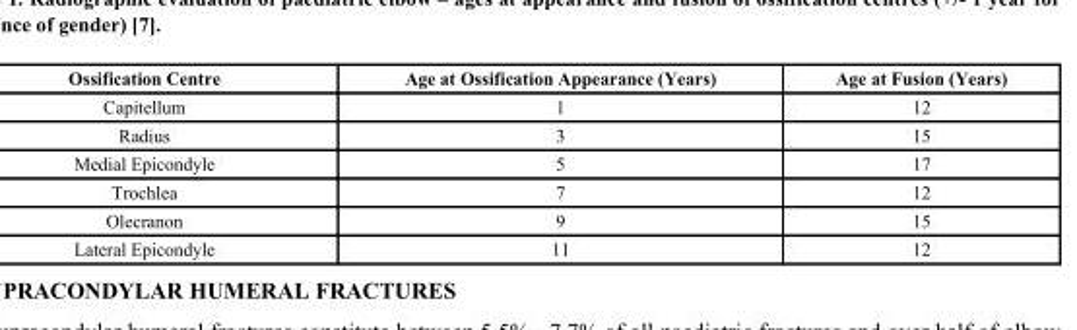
<table><thead><tr><td>Ossification Centre</td><td>Age at Ossification Appearance (Years)</td><td>Age at Fusion (Years)</td></tr></thead><tbody><tr><td>Capitellum</td><td>1</td><td>12</td></tr><tr><td>Radius</td><td>3</td><td>15</td></tr><tr><td>Medial Epicondyle</td><td>5</td><td>17</td></tr><tr><td>Trochlea</td><td>7</td><td>12</td></tr><tr><td>Olecranon</td><td>9</td><td>15</td></tr><tr><td>Lateral Epicondyle</td><td>11</td><td>12</td></tr></tbody></table>